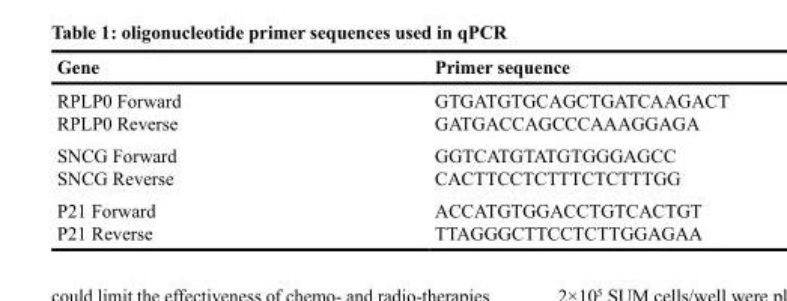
<table><thead><tr><td>Gene</td><td>Primer sequence</td></tr></thead><tbody><tr><td>RPLP0 Forward RPLP0 Reverse</td><td>GTGATGTGCAGCTGATCAAGACT GATGACCAGCCCAAAGGAGA</td></tr><tr><td>SNCG Forward SNCG Reverse</td><td>GGTCATGTATGTGGGAGCC CACTTCCTCTTTCTCTTTGG</td></tr><tr><td>P21 Forward P21 Reverse</td><td>ACCATGTGGACCTGTCACTGT TTAGGGCTTCCTCTTGGAGAA</td></tr></tbody></table>